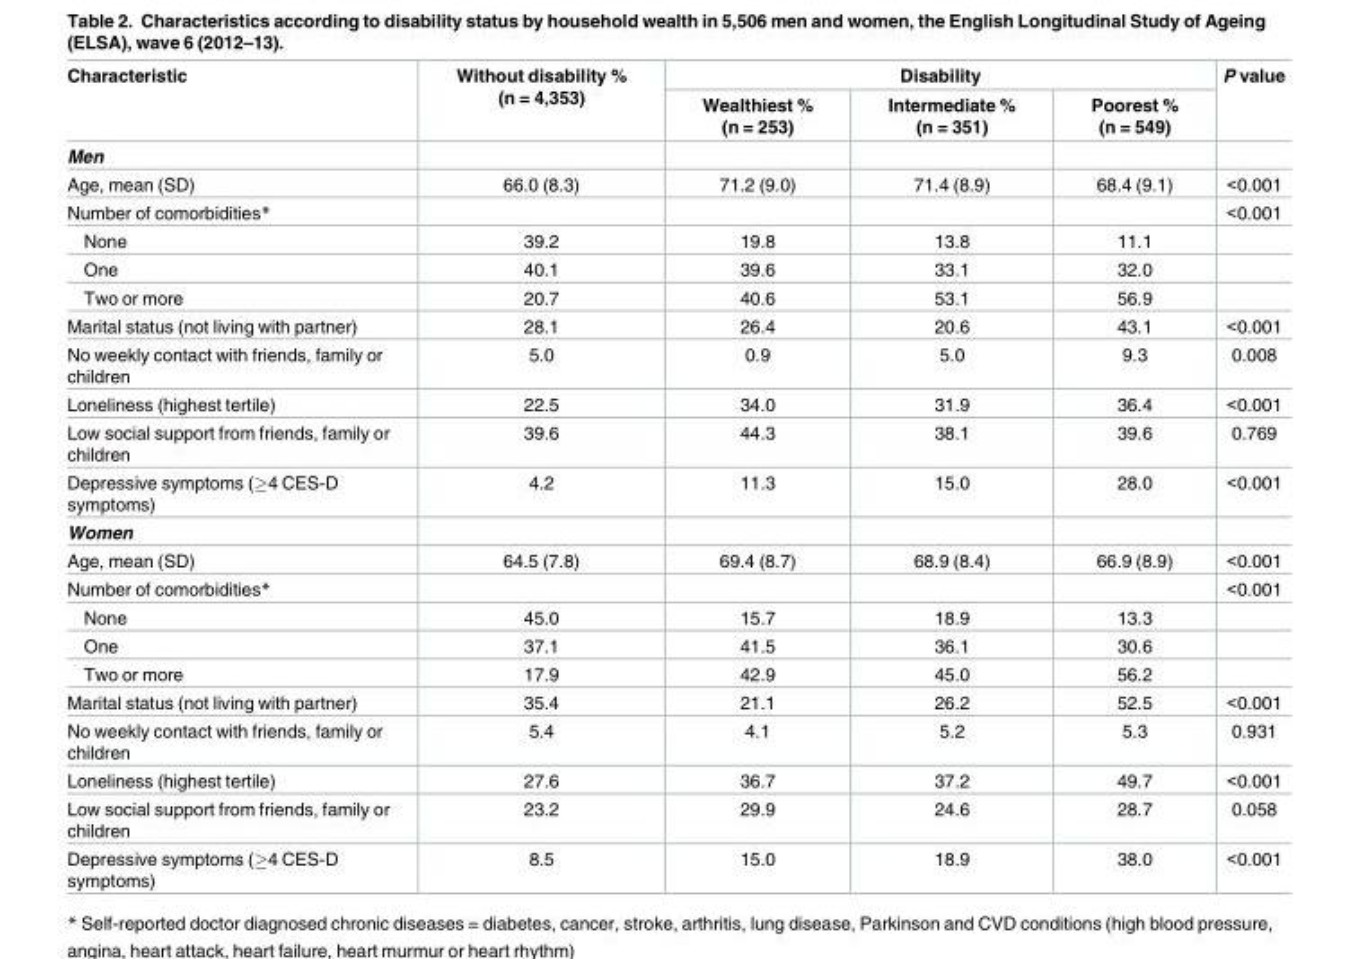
<table><thead><tr><td rowspan="2">Characteristic</td><td rowspan="2">Without disability % (n = 4,353)</td><td colspan="3">Disability</td><td rowspan="2">P value</td></tr><tr><td>Wealthiest % (n = 253)</td><td>Intermediate % (n = 351)</td><td>Poorest % (n = 549)</td></tr></thead><tbody><tr><td colspan="6">Men</td></tr><tr><td>Age, mean (SD)</td><td>66.0 (8.3)</td><td>71.2 (9.0)</td><td>71.4 (8.9)</td><td>68.4 (9.1)</td><td>&lt;0.001</td></tr><tr><td>Number of comorbidities*</td><td></td><td></td><td></td><td></td><td>&lt;0.001</td></tr><tr><td>None</td><td>39.2</td><td>19.8</td><td>13.8</td><td>11.1</td><td></td></tr><tr><td>One</td><td>40.1</td><td>39.6</td><td>33.1</td><td>32.0</td><td></td></tr><tr><td>Two or more</td><td>20.7</td><td>40.6</td><td>53.1</td><td>56.9</td><td></td></tr><tr><td>Marital status (not living with partner)</td><td>28.1</td><td>26.4</td><td>20.6</td><td>43.1</td><td>&lt;0.001</td></tr><tr><td>No weekly contact with friends, family or children</td><td>5.0</td><td>0.9</td><td>5.0</td><td>9.3</td><td>0.008</td></tr><tr><td>Loneliness (highest tertile)</td><td>22.5</td><td>34.0</td><td>31.9</td><td>36.4</td><td>&lt;0.001</td></tr><tr><td>Low social support from friends, family or children</td><td>39.6</td><td>44.3</td><td>38.1</td><td>39.6</td><td>0.769</td></tr><tr><td>Depressive symptoms (≥4 CES-D symptoms)</td><td>4.2</td><td>11.3</td><td>15.0</td><td>28.0</td><td>&lt;0.001</td></tr><tr><td colspan="6">Women</td></tr><tr><td>Age, mean (SD)</td><td>64.5 (7.8)</td><td>69.4 (8.7)</td><td>68.9 (8.4)</td><td>66.9 (8.9)</td><td>&lt;0.001</td></tr><tr><td>Number of comorbidities*</td><td></td><td></td><td></td><td></td><td>&lt;0.001</td></tr><tr><td>None</td><td>45.0</td><td>15.7</td><td>18.9</td><td>13.3</td><td></td></tr><tr><td>One</td><td>37.1</td><td>41.5</td><td>36.1</td><td>30.6</td><td></td></tr><tr><td>Two or more</td><td>17.9</td><td>42.9</td><td>45.0</td><td>56.2</td><td></td></tr><tr><td>Marital status (not living with partner)</td><td>35.4</td><td>21.1</td><td>26.2</td><td>52.5</td><td>&lt;0.001</td></tr><tr><td>No weekly contact with friends, family or children</td><td>5.4</td><td>4.1</td><td>5.2</td><td>5.3</td><td>0.931</td></tr><tr><td>Loneliness (highest tertile)</td><td>27.6</td><td>36.7</td><td>37.2</td><td>49.7</td><td>&lt;0.001</td></tr><tr><td>Low social support from friends, family or children</td><td>23.2</td><td>29.9</td><td>24.6</td><td>28.7</td><td>0.058</td></tr><tr><td>Depressive symptoms (≥4 CES-D symptoms)</td><td>8.5</td><td>15.0</td><td>18.9</td><td>38.0</td><td>&lt;0.001</td></tr></tbody></table>